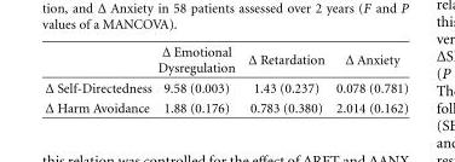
<table><thead><tr><td></td><td>Δ Emotional Dysregulation</td><td>Δ Retardation</td><td>Δ Anxiety</td></tr></thead><tbody><tr><td>Δ Self-Directedness</td><td>9.58 (0.003)</td><td>1.43 (0.237)</td><td>0.078 (0.781)</td></tr><tr><td>Δ Harm Avoidance</td><td>1.88 (0.176)</td><td>0.783 (0.380)</td><td>2.014 (0.162)</td></tr></tbody></table>